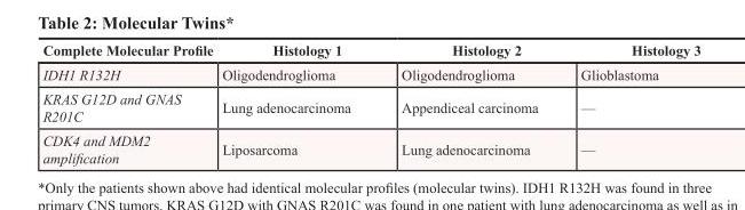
<table><thead><tr><td>Complete Molecular Profile</td><td>Histology 1</td><td>Histology 2</td><td>Histology 3</td></tr></thead><tbody><tr><td>IDH1 R132H</td><td>Oligodendroglioma</td><td>Oligodendroglioma</td><td>Glioblastoma</td></tr><tr><td>KRAS G12D and GNAS R201C</td><td>Lung adenocarcinoma</td><td>Appendiceal carcinoma</td><td>—</td></tr><tr><td>CDK4 and MDM2 amplification</td><td>Liposarcoma</td><td>Lung adenocarcinoma</td><td>—</td></tr></tbody></table>